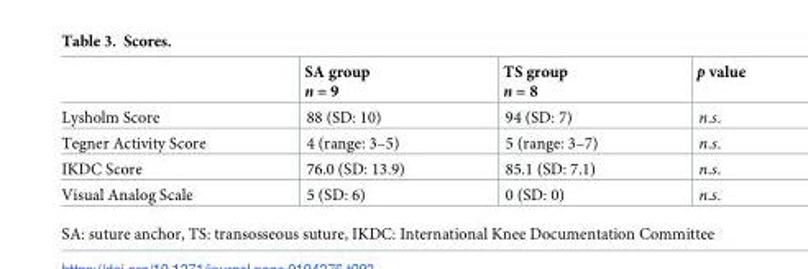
<table><thead><tr><td></td><td>SA group n = 9</td><td>TS group n = 8</td><td>p value</td></tr></thead><tbody><tr><td>Lysholm Score</td><td>88 (SD: 10)</td><td>94 (SD: 7)</td><td>n.s.</td></tr><tr><td>Tegner Activity Score</td><td>4 (range: 3–5)</td><td>5 (range: 3–7)</td><td>n.s.</td></tr><tr><td>IKDC Score</td><td>76.0 (SD: 13.9)</td><td>85.1 (SD: 7.1)</td><td>n.s.</td></tr><tr><td>Visual Analog Scale</td><td>5 (SD: 6)</td><td>0 (SD: 0)</td><td>n.s.</td></tr></tbody></table>